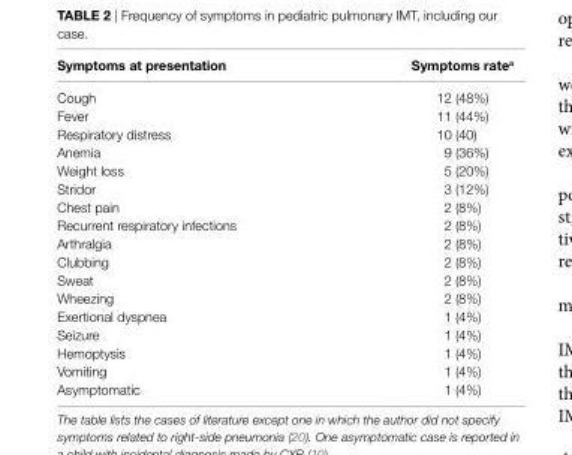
<table><thead><tr><td>symptoms at presentation</td><td>symptoms rate<sup>a</sup></td></tr></thead><tbody><tr><td>Cough</td><td>12 (48%)</td></tr><tr><td>Fever</td><td>11 (44%)</td></tr><tr><td>Respiratory distress</td><td>10 (40)</td></tr><tr><td>Anemia</td><td>9 (36%)</td></tr><tr><td>Weight loss</td><td>5 (20%)</td></tr><tr><td>Stridor</td><td>3 (12%)</td></tr><tr><td>Chest pain</td><td>2 (8%)</td></tr><tr><td>Recurrent respiratory infections</td><td>2 (8%)</td></tr><tr><td>Arthralgia</td><td>2 (8%)</td></tr><tr><td>Clubbing</td><td>2 (8%)</td></tr><tr><td>Sweat</td><td>2 (8%)</td></tr><tr><td>Wheezing</td><td>2 (8%)</td></tr><tr><td>Exertional dyspnea</td><td>1 (4%)</td></tr><tr><td>Seizure</td><td>1 (4%)</td></tr><tr><td>Hemoptysis</td><td>1 (4%)</td></tr><tr><td>Vomiting</td><td>1 (4%)</td></tr><tr><td>Asymptomatic</td><td>1 (4%)</td></tr></tbody></table>